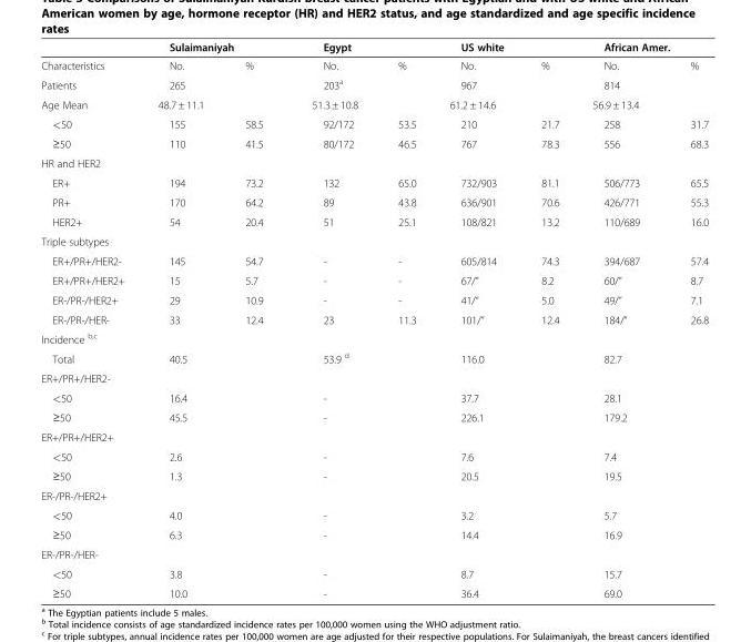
<table><thead><tr><td rowspan="2">Characteristics</td><td colspan="2">Sulaimaniyah</td><td colspan="2">Egypt</td><td colspan="2">US white</td><td colspan="2">African Amer.</td></tr><tr><td>No.</td><td>%</td><td>No.</td><td>%</td><td>No.</td><td>%</td><td>No.</td><td>%</td></tr></thead><tbody><tr><td>Patients</td><td colspan="2">265</td><td colspan="2">203<sup>a</sup></td><td colspan="2">967</td><td colspan="2">814</td></tr><tr><td>Age Mean</td><td colspan="2">48.7 ± 11.1</td><td colspan="2">51.3 ± 10.8</td><td colspan="2">61.2 ± 14.6</td><td colspan="2">56.9 ± 13.4</td></tr><tr><td>&lt;50</td><td>155</td><td>58.5</td><td>92/172</td><td>53.5</td><td>210</td><td>21.7</td><td>258</td><td>31.7</td></tr><tr><td>≥50</td><td>110</td><td>41.5</td><td>80/172</td><td>46.5</td><td>767</td><td>78.3</td><td>556</td><td>68.3</td></tr><tr><td colspan="9">HR and HER2</td></tr><tr><td>ER+</td><td>194</td><td>73.2</td><td>132</td><td>65.0</td><td>732/903</td><td>81.1</td><td>506/773</td><td>65.5</td></tr><tr><td>PR+</td><td>170</td><td>64.2</td><td>89</td><td>43.8</td><td>636/901</td><td>70.6</td><td>426/771</td><td>55.3</td></tr><tr><td>HER2+</td><td>54</td><td>20.4</td><td>51</td><td>25.1</td><td>108/821</td><td>13.2</td><td>110/689</td><td>16.0</td></tr><tr><td colspan="9">Triple subtypes</td></tr><tr><td>ER+/PR+/HER2-</td><td>145</td><td>54.7</td><td>-</td><td>-</td><td>605/814</td><td>74.3</td><td>394/687</td><td>57.4</td></tr><tr><td>ER+/PR+/HER2+</td><td>15</td><td>5.7</td><td>-</td><td>-</td><td>67/”</td><td>8.2</td><td>60/”</td><td>8.7</td></tr><tr><td>ER-/PR-/HER2+</td><td>29</td><td>10.9</td><td>-</td><td>-</td><td>41/”</td><td>5.0</td><td>49/”</td><td>7.1</td></tr><tr><td>ER-/PR-/HER-</td><td>33</td><td>12.4</td><td>23</td><td>11.3</td><td>101/”</td><td>12.4</td><td>184/”</td><td>26.8</td></tr><tr><td colspan="9">Incidence <sup>b,c</sup></td></tr><tr><td>Total</td><td colspan="2">40.5</td><td colspan="2">53.9 <sup>d</sup></td><td colspan="2">116.0</td><td colspan="2">82.7</td></tr><tr><td colspan="9">ER+/PR+/HER2-</td></tr><tr><td>&lt;50</td><td colspan="2">16.4</td><td colspan="2">-</td><td colspan="2">37.7</td><td colspan="2">28.1</td></tr><tr><td>≥50</td><td colspan="2">45.5</td><td colspan="2">-</td><td colspan="2">226.1</td><td colspan="2">179.2</td></tr><tr><td colspan="9">ER+/PR+/HER2+</td></tr><tr><td>&lt;50</td><td colspan="2">2.6</td><td colspan="2">-</td><td colspan="2">7.6</td><td colspan="2">7.4</td></tr><tr><td>≥50</td><td colspan="2">1.3</td><td colspan="2">-</td><td colspan="2">20.5</td><td colspan="2">19.5</td></tr><tr><td colspan="9">ER-/PR-/HER2+</td></tr><tr><td>&lt;50</td><td colspan="2">4.0</td><td colspan="2">-</td><td colspan="2">3.2</td><td colspan="2">5.7</td></tr><tr><td>≥50</td><td colspan="2">6.3</td><td colspan="2">-</td><td colspan="2">14.4</td><td colspan="2">16.9</td></tr><tr><td colspan="9">ER-/PR-/HER-</td></tr><tr><td>&lt;50</td><td colspan="2">3.8</td><td colspan="2">-</td><td colspan="2">8.7</td><td colspan="2">15.7</td></tr><tr><td>≥50</td><td colspan="2">10.0</td><td colspan="2">-</td><td colspan="2">36.4</td><td colspan="2">69.0</td></tr></tbody></table>